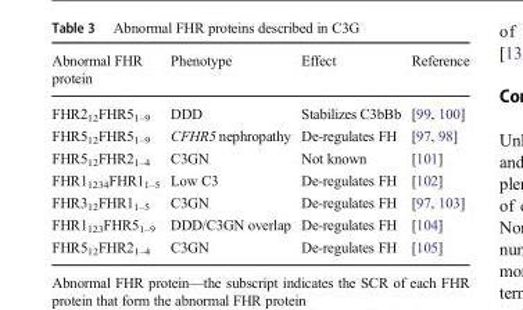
<table><thead><tr><td>Abnormal FHR protein</td><td>Phenotype</td><td>Effect</td><td>Reference</td></tr></thead><tbody><tr><td>FHR2<sub>12</sub>FHR5<sub>1–9</sub></td><td>DDD</td><td>Stabilizes C3bBb</td><td>[99, 100]</td></tr><tr><td>FHR5<sub>12</sub>FHR5<sub>1–9</sub></td><td>CFHR5 nephropathy</td><td>De-regulates FH</td><td>[97, 98]</td></tr><tr><td>FHR5<sub>12</sub>FHR2<sub>1–4</sub></td><td>C3GN</td><td>Not known</td><td>[101]</td></tr><tr><td>FHR1<sub>1234</sub>FHR1<sub>1–5</sub></td><td>Low C3</td><td>De-regulates FH</td><td>[102]</td></tr><tr><td>FHR3<sub>12</sub>FHR1<sub>1–5</sub></td><td>C3GN</td><td>De-regulates FH</td><td>[97, 103]</td></tr><tr><td>FHR1<sub>123</sub>FHR5<sub>1–9</sub></td><td>DDD/C3GN overlap</td><td>De-regulates FH</td><td>[104]</td></tr><tr><td>FHR5<sub>12</sub>FHR2<sub>1–4</sub></td><td>C3GN</td><td>De-regulates FH</td><td>[105]</td></tr></tbody></table>